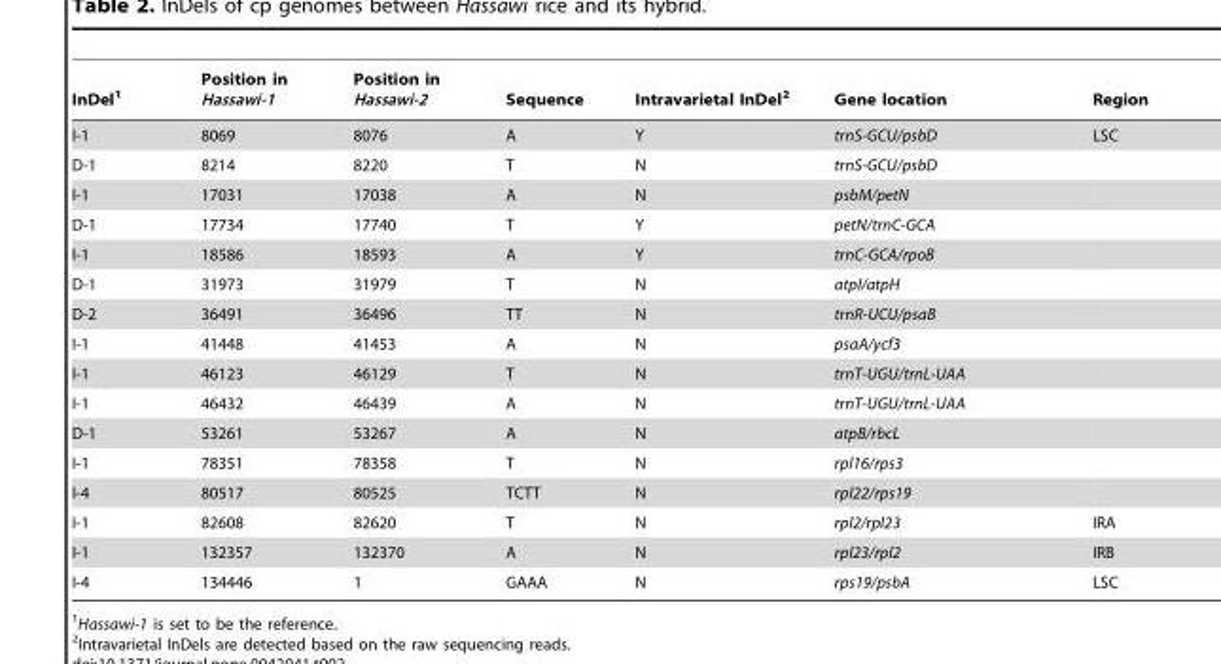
<table><thead><tr><td>InDel<sup>1</sup></td><td>Position in Hassawi-1</td><td>Position in Hassawi-2</td><td>Sequence</td><td>Intravarietal InDel<sup>2</sup></td><td>Gene location</td><td>Region</td></tr></thead><tbody><tr><td>I-1</td><td>8069</td><td>8076</td><td>A</td><td>Y</td><td>trnS-GCU/psbD</td><td>LSC</td></tr><tr><td>D-1</td><td>8214</td><td>8220</td><td>T</td><td>N</td><td>trnS-GCU/psbD</td><td></td></tr><tr><td>I-1</td><td>17031</td><td>17038</td><td>A</td><td>N</td><td>psbM/petN</td><td></td></tr><tr><td>D-1</td><td>17734</td><td>17740</td><td>T</td><td>Y</td><td>petN/trnC-GCA</td><td></td></tr><tr><td>I-1</td><td>18586</td><td>18593</td><td>A</td><td>Y</td><td>trnC-GCA/rpoB</td><td></td></tr><tr><td>D-1</td><td>31973</td><td>31979</td><td>T</td><td>N</td><td>atpI/atpH</td><td></td></tr><tr><td>D-2</td><td>36491</td><td>36496</td><td>TT</td><td>N</td><td>trnR-UCU/psaB</td><td></td></tr><tr><td>I-1</td><td>41448</td><td>41453</td><td>A</td><td>N</td><td>psaA/ycf3</td><td></td></tr><tr><td>I-1</td><td>46123</td><td>46129</td><td>T</td><td>N</td><td>trnT-UGU/trnL-UAA</td><td></td></tr><tr><td>I-1</td><td>46432</td><td>46439</td><td>A</td><td>N</td><td>trnT-UGU/trnL-UAA</td><td></td></tr><tr><td>D-1</td><td>53261</td><td>53267</td><td>A</td><td>N</td><td>atpB/rbcL</td><td></td></tr><tr><td>I-1</td><td>78351</td><td>78358</td><td>T</td><td>N</td><td>rpl16/rps3</td><td></td></tr><tr><td>I-4</td><td>80517</td><td>80525</td><td>TCTT</td><td>N</td><td>rpl22/rps19</td><td></td></tr><tr><td>I-1</td><td>82608</td><td>82620</td><td>T</td><td>N</td><td>rpl2/rpl23</td><td>IRA</td></tr><tr><td>I-1</td><td>132357</td><td>132370</td><td>A</td><td>N</td><td>rpl23/rpl2</td><td>IRB</td></tr><tr><td>I-4</td><td>134446</td><td>1</td><td>GAAA</td><td>N</td><td>rps19/psbA</td><td>LSC</td></tr></tbody></table>